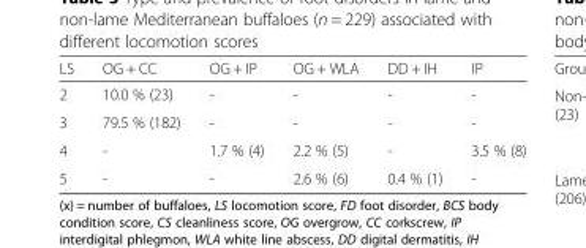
<table><thead><tr><td>LS</td><td>OG + CC</td><td>OG + IP</td><td>OG + WLA</td><td>DD + IH</td><td>IP</td></tr></thead><tbody><tr><td>2</td><td>10.0 % (23)</td><td>-</td><td>-</td><td>-</td><td>-</td></tr><tr><td>3</td><td>79.5 % (182)</td><td>-</td><td>-</td><td>-</td><td>-</td></tr><tr><td>4</td><td>-</td><td>1.7 % (4)</td><td>2.2 % (5)</td><td>-</td><td>3.5 % (8)</td></tr><tr><td>5</td><td>-</td><td>-</td><td>2.6 % (6)</td><td>0.4 % (1)</td><td>-</td></tr></tbody></table>